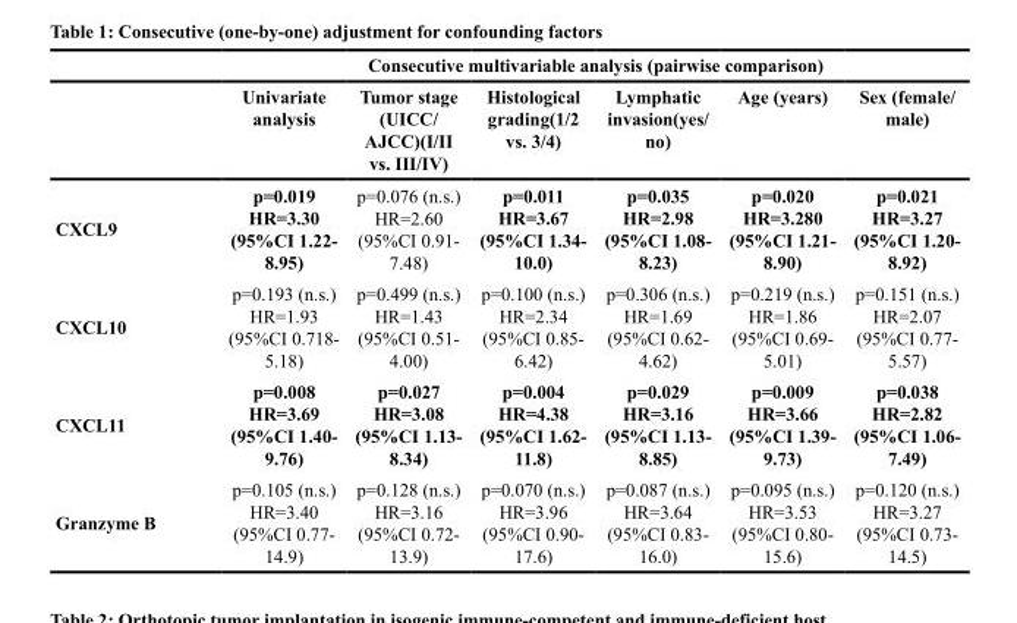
<table><thead><tr><td rowspan="2"></td><td colspan="6">Consecutive multivariable analysis (pairwise comparison)</td></tr><tr><td>Univariate analysis</td><td>Tumor stage (UICC/ AJCC)(I/II vs. III/IV)</td><td>Histological grading(1/2 vs. 3/4)</td><td>Lymphatic invasion(yes/ no)</td><td>Age (years)</td><td>Sex (female/ male)</td></tr></thead><tbody><tr><td>CXCL9</td><td>p=0.019 HR=3.30 (95%CI 1.22- 8.95)</td><td>p=0.076 (n.s.) HR=2.60 (95%CI 0.91- 7.48)</td><td>p=0.011 HR=3.67 (95%CI 1.34- 10.0)</td><td>p=0.035 HR=2.98 (95%CI 1.08- 8.23)</td><td>p=0.020 HR=3.280 (95%CI 1.21- 8.90)</td><td>p=0.021 HR=3.27 (95%CI 1.20- 8.92)</td></tr><tr><td>CXCL10</td><td>p=0.193 (n.s.) HR=1.93 (95%CI 0.718- 5.18)</td><td>p=0.499 (n.s.) HR=1.43 (95%CI 0.51- 4.00)</td><td>p=0.100 (n.s.) HR=2.34 (95%CI 0.85- 6.42)</td><td>p=0.306 (n.s.) HR=1.69 (95%CI 0.62- 4.62)</td><td>p=0.219 (n.s.) HR=1.86 (95%CI 0.69- 5.01)</td><td>p=0.151 (n.s.) HR=2.07 (95%CI 0.77- 5.57)</td></tr><tr><td>CXCL11</td><td>p=0.008 HR=3.69 (95%CI 1.40- 9.76)</td><td>p=0.027 HR=3.08 (95%CI 1.13- 8.34)</td><td>p=0.004 HR=4.38 (95%CI 1.62- 11.8)</td><td>p=0.029 HR=3.16 (95%CI 1.13- 8.85)</td><td>p=0.009 HR=3.66 (95%CI 1.39- 9.73)</td><td>p=0.038 HR=2.82 (95%CI 1.06- 7.49)</td></tr><tr><td>Granzyme B</td><td>p=0.105 (n.s.) HR=3.40 (95%CI 0.77- 14.9)</td><td>p=0.128 (n.s.) HR=3.16 (95%CI 0.72- 13.9)</td><td>p=0.070 (n.s.) HR=3.96 (95%CI 0.90- 17.6)</td><td>p=0.087 (n.s.) HR=3.64 (95%CI 0.83- 16.0)</td><td>p=0.095 (n.s.) HR=3.53 (95%CI 0.80- 15.6)</td><td>p=0.120 (n.s.) HR=3.27 (95%CI 0.73- 14.5)</td></tr></tbody></table>